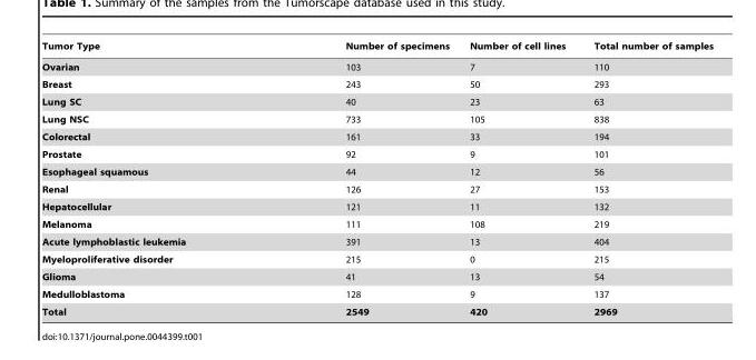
<table><thead><tr><td>Tumor Type</td><td>Number of specimens</td><td>Number of cell lines</td><td>Total number of samples</td></tr></thead><tbody><tr><td>Ovarian</td><td>103</td><td>7</td><td>110</td></tr><tr><td>Breast</td><td>243</td><td>50</td><td>293</td></tr><tr><td>Lung SC</td><td>40</td><td>23</td><td>63</td></tr><tr><td>Lung NSC</td><td>733</td><td>105</td><td>838</td></tr><tr><td>Colorectal</td><td>161</td><td>33</td><td>194</td></tr><tr><td>Prostate</td><td>92</td><td>9</td><td>101</td></tr><tr><td>Esophageal squamous</td><td>44</td><td>12</td><td>56</td></tr><tr><td>Renal</td><td>126</td><td>27</td><td>153</td></tr><tr><td>Hepatocellular</td><td>121</td><td>11</td><td>132</td></tr><tr><td>Melanoma</td><td>111</td><td>108</td><td>219</td></tr><tr><td>Acute lymphoblastic leukemia</td><td>391</td><td>13</td><td>404</td></tr><tr><td>Myeloproliferative disorder</td><td>215</td><td>0</td><td>215</td></tr><tr><td>Glioma</td><td>41</td><td>13</td><td>54</td></tr><tr><td>Medulloblastoma</td><td>128</td><td>9</td><td>137</td></tr><tr><td>Total</td><td>2549</td><td>420</td><td>2969</td></tr></tbody></table>